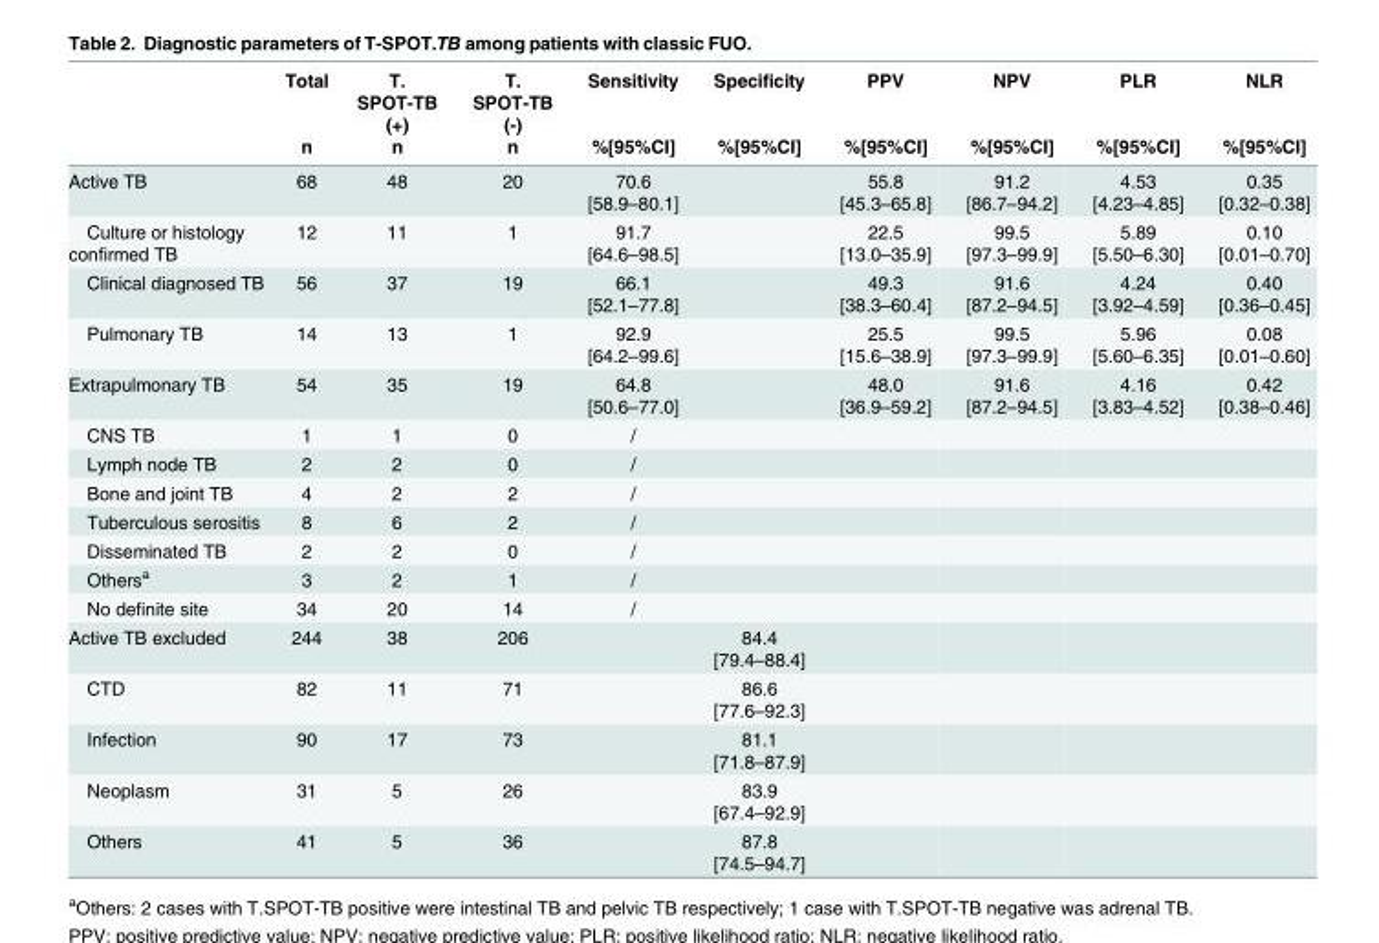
<table><thead><tr><td rowspan="2"></td><td rowspan="2">Total n</td><td rowspan="2">T. SPOT-TB (+) n</td><td rowspan="2">T. SPOT-TB (-) n</td><td rowspan="2">Sensitivity %[95%CI]</td><td rowspan="2">Specificity %[95%CI]</td><td rowspan="2">PPV %[95%CI]</td><td rowspan="2">NPV %[95%CI]</td><td rowspan="2">PLR %[95%CI]</td><td rowspan="2">NLR %[95%CI]</td></tr><tr></tr></thead><tbody><tr><td>Active TB</td><td>68</td><td>48</td><td>20</td><td>70.6 [58.9–80.1]</td><td></td><td>55.8 [45.3–65.8]</td><td>91.2 [86.7–94.2]</td><td>4.53 [4.23–4.85]</td><td>0.35 [0.32–0.38]</td></tr><tr><td>Culture or histology confirmed TB</td><td>12</td><td>11</td><td>1</td><td>91.7 [64.6–98.5]</td><td></td><td>22.5 [13.0–35.9]</td><td>99.5 [97.3–99.9]</td><td>5.89 [5.50–6.30]</td><td>0.10 [0.01–0.70]</td></tr><tr><td>Clinical diagnosed TB</td><td>56</td><td>37</td><td>19</td><td>66.1 [52.1–77.8]</td><td></td><td>49.3 [38.3–60.4]</td><td>91.6 [87.2–94.5]</td><td>4.24 [3.92–4.59]</td><td>0.40 [0.36–0.45]</td></tr><tr><td>Pulmonary TB</td><td>14</td><td>13</td><td>1</td><td>92.9 [64.2–99.6]</td><td></td><td>25.5 [15.6–38.9]</td><td>99.5 [97.3–99.9]</td><td>5.96 [5.60–6.35]</td><td>0.08 [0.01–0.60]</td></tr><tr><td>Extrapulmonary TB</td><td>54</td><td>35</td><td>19</td><td>64.8 [50.6–77.0]</td><td></td><td>48.0 [36.9–59.2]</td><td>91.6 [87.2–94.5]</td><td>4.16 [3.83–4.52]</td><td>0.42 [0.38–0.46]</td></tr><tr><td>CNS TB</td><td>1</td><td>1</td><td>0</td><td>/</td><td></td><td></td><td></td><td></td><td></td></tr><tr><td>Lymph node TB</td><td>2</td><td>2</td><td>0</td><td>/</td><td></td><td></td><td></td><td></td><td></td></tr><tr><td>Bone and joint TB</td><td>4</td><td>2</td><td>2</td><td>/</td><td></td><td></td><td></td><td></td><td></td></tr><tr><td>Tuberculous serositis</td><td>8</td><td>6</td><td>2</td><td>/</td><td></td><td></td><td></td><td></td><td></td></tr><tr><td>Disseminated TB</td><td>2</td><td>2</td><td>0</td><td>/</td><td></td><td></td><td></td><td></td><td></td></tr><tr><td>Others<sup>a</sup></td><td>3</td><td>2</td><td>1</td><td>/</td><td></td><td></td><td></td><td></td><td></td></tr><tr><td>No definite site</td><td>34</td><td>20</td><td>14</td><td>/</td><td></td><td></td><td></td><td></td><td></td></tr><tr><td>Active TB excluded</td><td>244</td><td>38</td><td>206</td><td></td><td>84.4 [79.4–88.4]</td><td></td><td></td><td></td><td></td></tr><tr><td>CTD</td><td>82</td><td>11</td><td>71</td><td></td><td>86.6 [77.6–92.3]</td><td></td><td></td><td></td><td></td></tr><tr><td>Infection</td><td>90</td><td>17</td><td>73</td><td></td><td>81.1 [71.8–87.9]</td><td></td><td></td><td></td><td></td></tr><tr><td>Neoplasm</td><td>31</td><td>5</td><td>26</td><td></td><td>83.9 [67.4–92.9]</td><td></td><td></td><td></td><td></td></tr><tr><td>Others</td><td>41</td><td>5</td><td>36</td><td></td><td>87.8 [74.5–94.7]</td><td></td><td></td><td></td><td></td></tr></tbody></table>